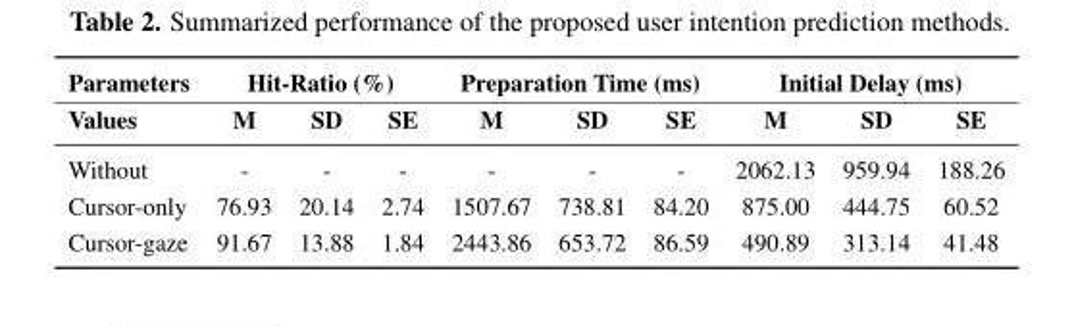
<table><thead><tr><td rowspan="2">Parameters Values</td><td colspan="3">Hit-Ratio (%)</td><td colspan="3">Preparation Time (ms)</td><td colspan="3">Initial Delay (ms)</td></tr><tr><td>M</td><td>SD</td><td>SE</td><td>M</td><td>SD</td><td>SE</td><td>M</td><td>SD</td><td>SE</td></tr></thead><tbody><tr><td>Without</td><td>-</td><td>-</td><td>-</td><td>-</td><td>-</td><td>-</td><td>2062.13</td><td>959.94</td><td>188.26</td></tr><tr><td>Cursor-only</td><td>76.93</td><td>20.14</td><td>2.74</td><td>1507.67</td><td>738.81</td><td>84.20</td><td>875.00</td><td>444.75</td><td>60.52</td></tr><tr><td>Cursor-gaze</td><td>91.67</td><td>13.88</td><td>1.84</td><td>2443.86</td><td>653.72</td><td>86.59</td><td>490.89</td><td>313.14</td><td>41.48</td></tr></tbody></table>